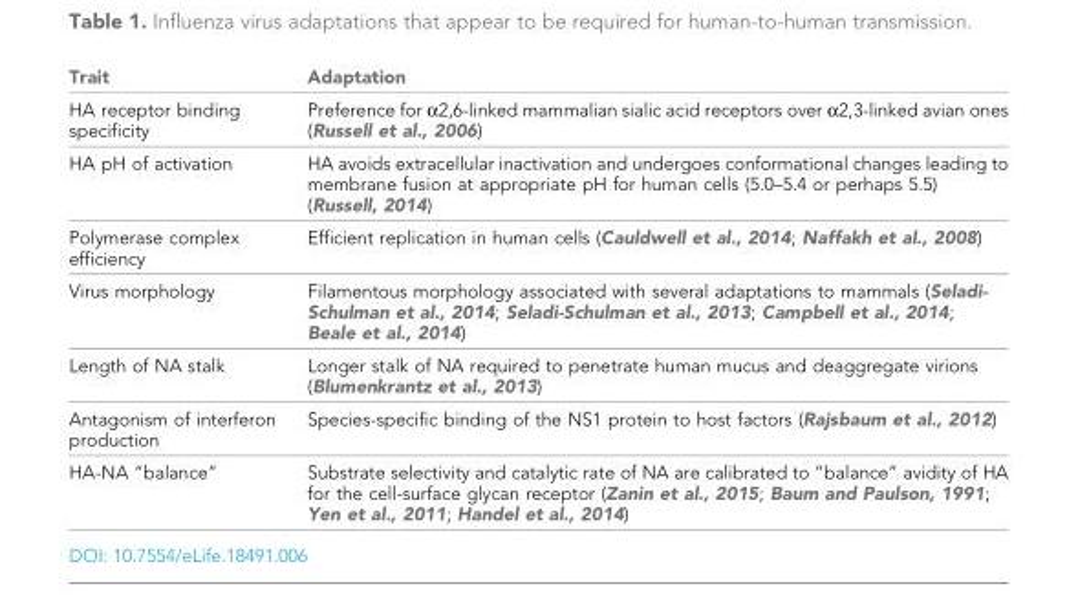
<table><thead><tr><td>Trait</td><td>Adaptation</td></tr></thead><tbody><tr><td>HA receptor binding specificity</td><td>Preference for α2,6-linked mammalian sialic acid receptors over α2,3-linked avian ones (Russell et al., 2006)</td></tr><tr><td>HA pH of activation</td><td>HA avoids extracellular inactivation and undergoes conformational changes leading to membrane fusion at appropriate pH for human cells (5.0–5.4 or perhaps 5.5) (Russell, 2014)</td></tr><tr><td>Polymerase complex efficiency</td><td>Efficient replication in human cells (Cauldwell et al., 2014; Naffakh et al., 2008)</td></tr><tr><td>Virus morphology</td><td>Filamentous morphology associated with several adaptations to mammals (Seladi- Schulman et al., 2014; Seladi-Schulman et al., 2013; Campbell et al., 2014; Beale et al., 2014)</td></tr><tr><td>Length of NA stalk</td><td>Longer stalk of NA required to penetrate human mucus and deaggregate virions (Blumenkrantz et al., 2013)</td></tr><tr><td>Antagonism of interferon production</td><td>Species-specific binding of the NS1 protein to host factors (Rajsbaum et al., 2012)</td></tr><tr><td>HA-NA “balance”</td><td>Substrate selectivity and catalytic rate of NA are calibrated to “balance” avidity of HA for the cell-surface glycan receptor (Zanin et al., 2015; Baum and Paulson, 1991; Yen et al., 2011; Handel et al., 2014)</td></tr></tbody></table>